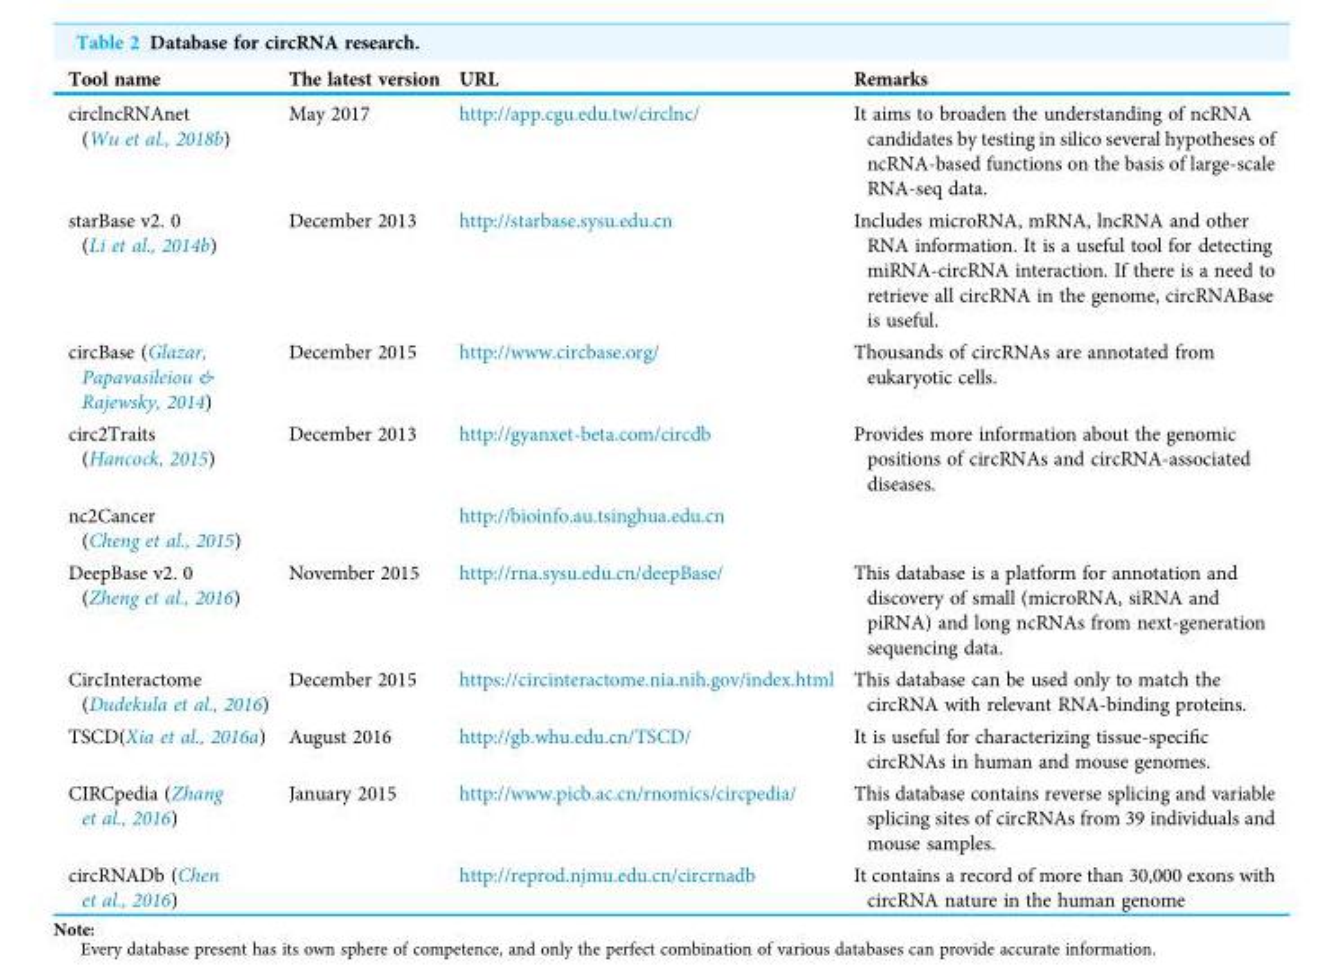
<table><thead><tr><td>Tool name</td><td>The latest version</td><td>URL</td><td>Remarks</td></tr></thead><tbody><tr><td>circlncRNAnet (Wu et al., 2018b)</td><td>May 2017</td><td>http://app.cgu.edu.tw/circlnc/</td><td>It aims to broaden the understanding of ncRNA candidates by testing in silico several hypotheses of ncRNA-based functions on the basis of large-scale RNA-seq data.</td></tr><tr><td>starBase v2. 0 (Li et al., 2014b)</td><td>December 2013</td><td>http://starbase.sysu.edu.cn</td><td>Includes microRNA, mRNA, lncRNA and other RNA information. It is a useful tool for detecting miRNA-circRNA interaction. If there is a need to retrieve all circRNA in the genome, circRNABase is useful.</td></tr><tr><td>circBase (Glazar, Papavasileiou &amp; Rajewsky, 2014)</td><td>December 2015</td><td>http://www.circbase.org/</td><td>Thousands of circRNAs are annotated from eukaryotic cells.</td></tr><tr><td>circ2Traits (Hancock, 2015)</td><td>December 2013</td><td>http://gyanxet-beta.com/circdb</td><td>Provides more information about the genomic positions of circRNAs and circRNA-associated diseases.</td></tr><tr><td>nc2Cancer (Cheng et al., 2015)</td><td></td><td>http://bioinfo.au.tsinghua.edu.cn</td><td></td></tr><tr><td>DeepBase v2. 0 (Zheng et al., 2016)</td><td>November 2015</td><td>http://rna.sysu.edu.cn/deepBase/</td><td>This database is a platform for annotation and discovery of small (microRNA, siRNA and piRNA) and long ncRNAs from next-generation sequencing data.</td></tr><tr><td>CircInteractome (Dudekula et al., 2016)</td><td>December 2015</td><td>https://circinteractome.nia.nih.gov/index.html</td><td>This database can be used only to match the circRNA with relevant RNA-binding proteins.</td></tr><tr><td>TSCD(Xia et al., 2016a)</td><td>August 2016</td><td>http://gb.whu.edu.cn/TSCD/</td><td>It is useful for characterizing tissue-specific circRNAs in human and mouse genomes.</td></tr><tr><td>CIRCpedia (Zhang et al., 2016)</td><td>January 2015</td><td>http://www.picb.ac.cn/rnomics/circpedia/</td><td>This database contains reverse splicing and variable splicing sites of circRNAs from 39 individuals and mouse samples.</td></tr><tr><td>circRNADb (Chen et al., 2016)</td><td></td><td>http://reprod.njmu.edu.cn/circrnadb</td><td>It contains a record of more than 30,000 exons with circRNA nature in the human genome</td></tr></tbody></table>